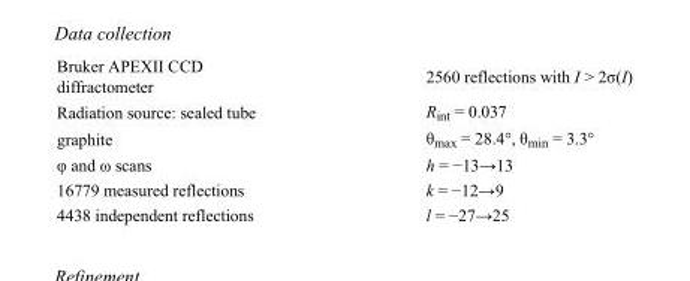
<table><tbody><tr><td>Bruker APEXII CCD diffractometer</td><td>2560 reflections with I &gt; 2σ(I)</td></tr><tr><td>Radiation source: sealed tube</td><td>R<sub>int</sub> = 0.037</td></tr><tr><td>graphite</td><td>θ<sub>max</sub> = 28.4°, θ<sub>min</sub> = 3.3°</td></tr><tr><td>φ and ω scans</td><td>h = −13→13</td></tr><tr><td>16779 measured reflections</td><td>k = −12→9</td></tr><tr><td>4438 independent reflections</td><td>l = −27→25</td></tr></tbody></table>